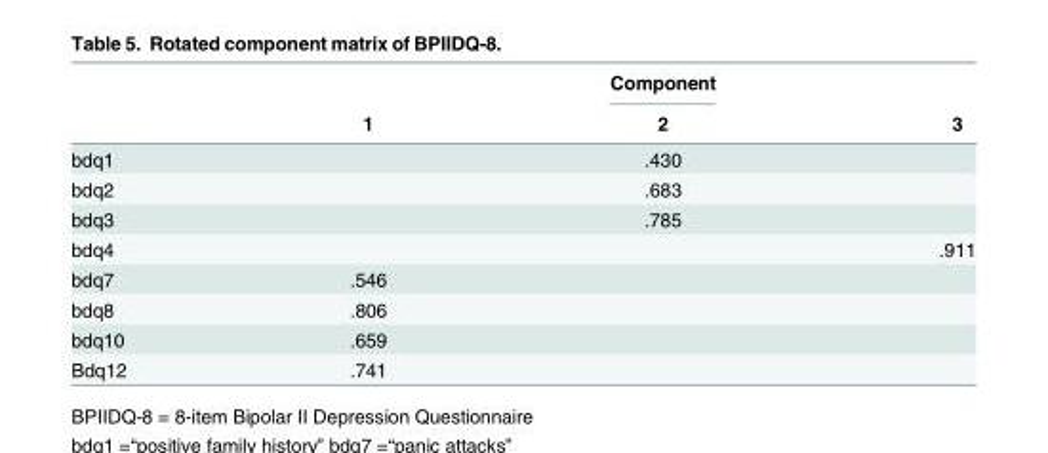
<table><thead><tr><td rowspan="2"></td><td rowspan="2">1</td><td rowspan="2">Component 2</td><td rowspan="2">3</td></tr><tr></tr></thead><tbody><tr><td>bdq1</td><td></td><td>.430</td><td></td></tr><tr><td>bdq2</td><td></td><td>.683</td><td></td></tr><tr><td>bdq3</td><td></td><td>.785</td><td></td></tr><tr><td>bdq4</td><td></td><td></td><td>.911</td></tr><tr><td>bdq7</td><td>.546</td><td></td><td></td></tr><tr><td>bdq8</td><td>.806</td><td></td><td></td></tr><tr><td>bdq10</td><td>.659</td><td></td><td></td></tr><tr><td>Bdq12</td><td>.741</td><td></td><td></td></tr></tbody></table>